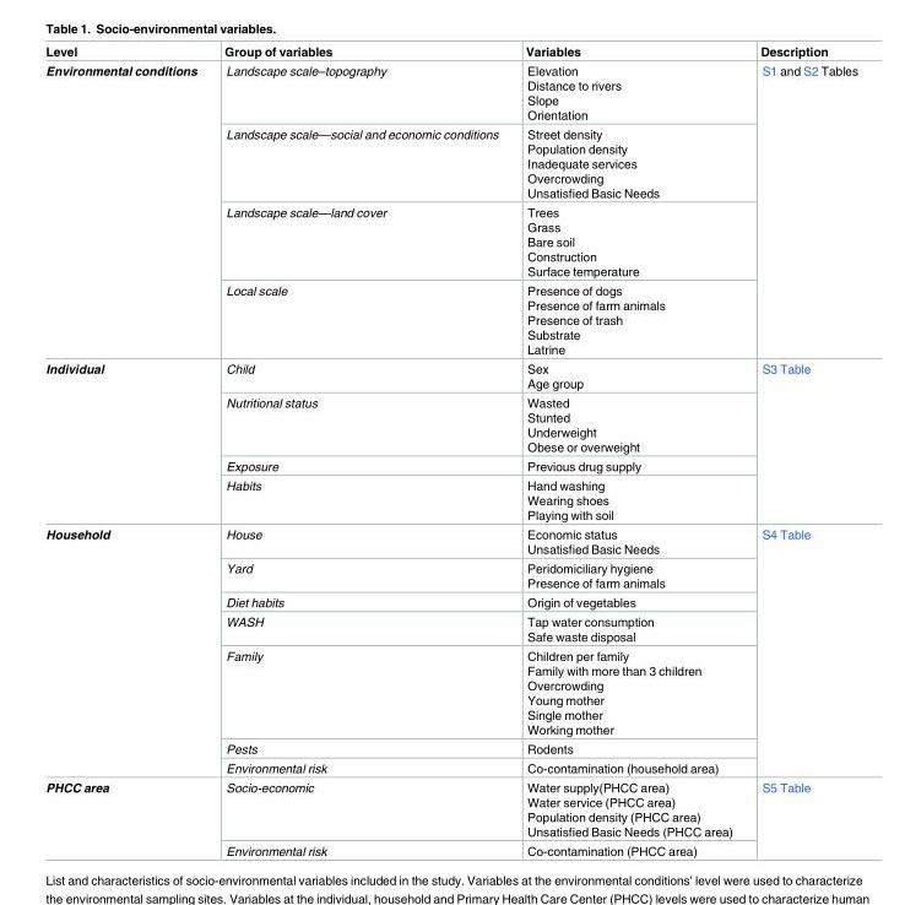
<table><thead><tr><td>Level</td><td>Group of variables</td><td>Variables</td><td>Description</td></tr></thead><tbody><tr><td rowspan="4">Environmental conditions</td><td>Landscape scale–topography</td><td>Elevation Distance to rivers Slope Orientation</td><td rowspan="4">S1 and S2 Tables</td></tr><tr><td>Landscape scale—social and economic conditions</td><td>Street density Population density Inadequate services Overcrowding Unsatisfied Basic Needs</td></tr><tr><td>Landscape scale—land cover</td><td>Trees Grass Bare soil Construction Surface temperature</td></tr><tr><td>Local scale</td><td>Presence of dogs Presence of farm animals Presence of trash Substrate Latrine</td></tr><tr><td rowspan="4">Individual</td><td>Child</td><td>Sex Age group</td><td rowspan="4">S3 Table</td></tr><tr><td>Nutritional status</td><td>Wasted Stunted Underweight Obese or overweight</td></tr><tr><td>Exposure</td><td>Previous drug supply</td></tr><tr><td>Habits</td><td>Hand washing Wearing shoes Playing with soil</td></tr><tr><td rowspan="7">Household</td><td>House</td><td>Economic status Unsatisfied Basic Needs</td><td rowspan="7">S4 Table</td></tr><tr><td>Yard</td><td>Peridomiciliary hygiene Presence of farm animals</td></tr><tr><td>Diet habits</td><td>Origin of vegetables</td></tr><tr><td>WASH</td><td>Tap water consumption Safe waste disposal</td></tr><tr><td>Family</td><td>Children per family Family with more than 3 children Overcrowding Young mother Single mother Working mother</td></tr><tr><td>Pests</td><td>Rodents</td></tr><tr><td>Environmental risk</td><td>Co-contamination (household area)</td></tr><tr><td rowspan="2">PHCC area</td><td>Socio-economic</td><td>Water supply(PHCC area) Water service (PHCC area) Population density (PHCC area) Unsatisfied Basic Needs (PHCC area)</td><td rowspan="2">S5 Table</td></tr><tr><td>Environmental risk</td><td>Co-contamination (PHCC area)</td></tr></tbody></table>